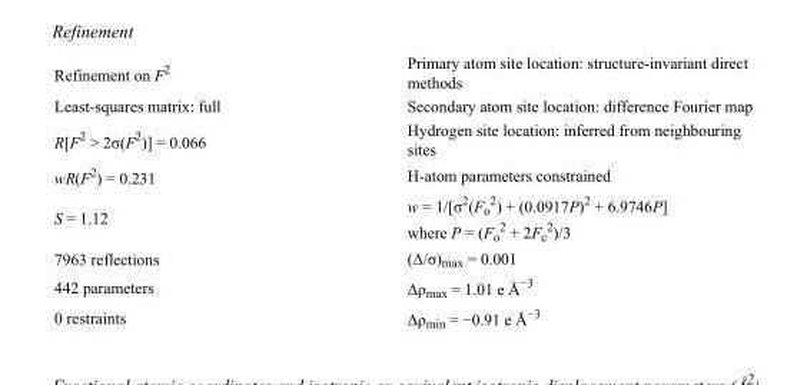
<table><tbody><tr><td>Refinement on F<sup>2</sup></td><td>Primary atom site location: structure-invariant direct methods</td></tr><tr><td>Least-squares matrix: full</td><td>Secondary atom site location: difference Fourier map</td></tr><tr><td>R[F<sup>2</sup> &gt; 2σ(F<sup>2</sup>)] = 0.066</td><td>Hydrogen site location: inferred from neighbouring sites</td></tr><tr><td>wR(F<sup>2</sup>) = 0.231</td><td>H-atom parameters constrained</td></tr><tr><td>S = 1.12</td><td>w = 1/[σ<sup>2</sup>(F<sub>o</sub> <sup>2</sup>) + (0.0917P)<sup>2</sup> + 6.9746P] where P = (F<sub>o</sub> <sup>2</sup> + 2F<sub>c</sub> <sup>2</sup>)/3</td></tr><tr><td>7963 reflections</td><td>(Δ/σ)<sub>max</sub> = 0.001</td></tr><tr><td>442 parameters</td><td>Δρ<sub>max</sub> = 1.01 e Å<sup>−3</sup></td></tr><tr><td>0 restraints</td><td>Δρ<sub>min</sub> = −0.91 e Å<sup>−3</sup></td></tr></tbody></table>